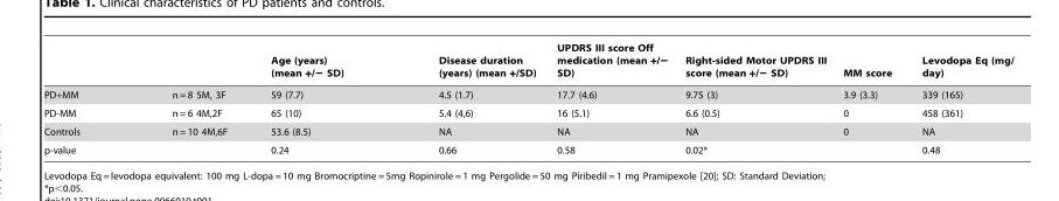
<table><thead><tr><td></td><td></td><td>Age (years) (mean +/− SD)</td><td>Disease duration (years) (mean +/SD)</td><td>UPDRS III score Off medication (mean +/− SD)</td><td>Right-sided Motor UPDRS III score (mean +/− SD)</td><td>MM score</td><td>Levodopa Eq (mg/ day)</td></tr></thead><tbody><tr><td>PD+MM</td><td>n = 8 5M, 3F</td><td>59 (7.7)</td><td>4.5 (1.7)</td><td>17.7 (4.6)</td><td>9.75 (3)</td><td>3.9 (3.3)</td><td>339 (165)</td></tr><tr><td>PD-MM</td><td>n = 6 4M,2F</td><td>65 (10)</td><td>5.4 (4,6)</td><td>16 (5.1)</td><td>6.6 (0.5)</td><td>0</td><td>458 (361)</td></tr><tr><td>Controls</td><td>n = 10 4M,6F</td><td>53.6 (8.5)</td><td>NA</td><td>NA</td><td>NA</td><td>0</td><td>NA</td></tr><tr><td>p-value</td><td></td><td>0.24</td><td>0.66</td><td>0.58</td><td>0.02*</td><td></td><td>0.48</td></tr></tbody></table>